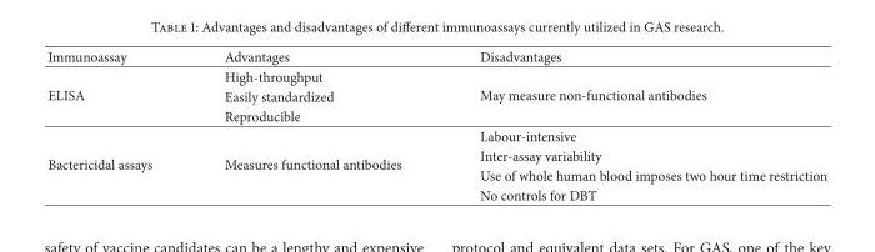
<table><thead><tr><td>Immunoassay</td><td>Advantages</td><td>Disadvantages</td></tr></thead><tbody><tr><td rowspan="3">ELISA</td><td>High-throughput</td><td rowspan="3">May measure non-functional antibodies</td></tr><tr><td>Easily standardized</td></tr><tr><td>Reproducible</td></tr><tr><td rowspan="4">Bactericidal assays</td><td rowspan="4">Measures functional antibodies</td><td>Labour-intensive</td></tr><tr><td>Inter-assay variability</td></tr><tr><td>Use of whole human blood imposes two hour time restriction</td></tr><tr><td>No controls for DBT</td></tr></tbody></table>